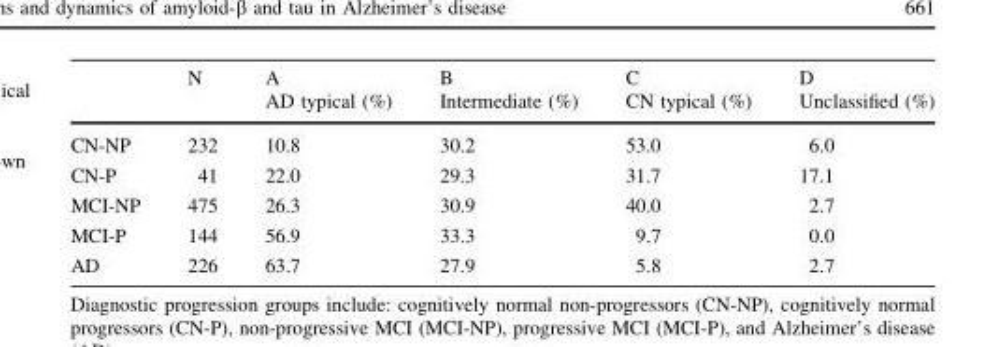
<table><thead><tr><td></td><td>N</td><td>A AD typical (%)</td><td>B Intermediate (%)</td><td>C CN typical (%)</td><td>D Unclassified (%)</td></tr></thead><tbody><tr><td>CN-NP</td><td>232</td><td>10.8</td><td>30.2</td><td>53.0</td><td>6.0</td></tr><tr><td>CN-P</td><td>41</td><td>22.0</td><td>29.3</td><td>31.7</td><td>17.1</td></tr><tr><td>MCI-NP</td><td>475</td><td>26.3</td><td>30.9</td><td>40.0</td><td>2.7</td></tr><tr><td>MCI-P</td><td>144</td><td>56.9</td><td>33.3</td><td>9.7</td><td>0.0</td></tr><tr><td>AD</td><td>226</td><td>63.7</td><td>27.9</td><td>5.8</td><td>2.7</td></tr></tbody></table>